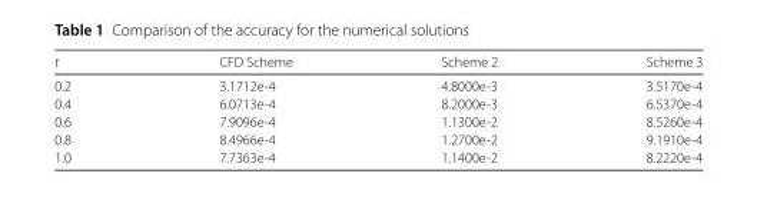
<table><thead><tr><td>t</td><td>CFD Scheme</td><td>Scheme 2</td><td>Scheme 3</td></tr></thead><tbody><tr><td>0.2</td><td>3.1712e-4</td><td>4.8000e-3</td><td>3.5170e-4</td></tr><tr><td>0.4</td><td>6.0713e-4</td><td>8.2000e-3</td><td>6.5370e-4</td></tr><tr><td>0.6</td><td>7.9096e-4</td><td>1.1300e-2</td><td>8.5260e-4</td></tr><tr><td>0.8</td><td>8.4966e-4</td><td>1.2700e-2</td><td>9.1910e-4</td></tr><tr><td>1.0</td><td>7.7363e-4</td><td>1.1400e-2</td><td>8.2220e-4</td></tr></tbody></table>